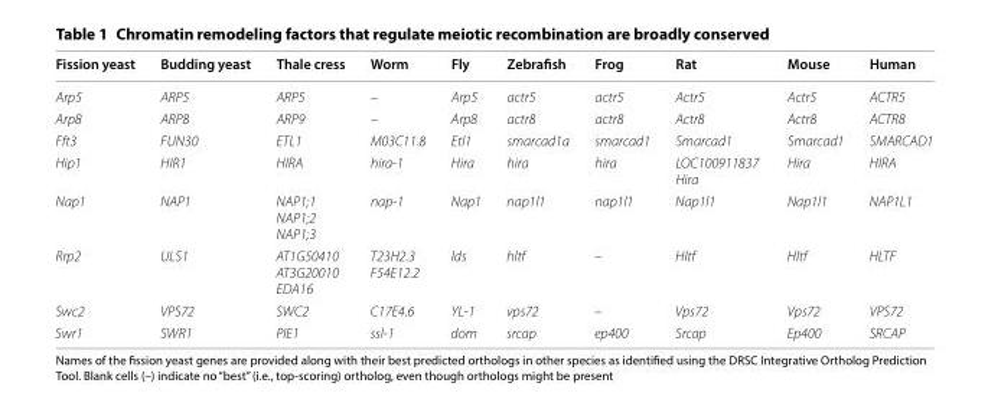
<table><thead><tr><td>Fission yeast</td><td>Budding yeast</td><td>Thale cress</td><td>Worm</td><td>Fly</td><td>Zebrafish</td><td>Frog</td><td>Rat</td><td>Mouse</td><td>Human</td></tr></thead><tbody><tr><td>Arp5</td><td>ARP5</td><td>ARP5</td><td>–</td><td>Arp5</td><td>actr5</td><td>actr5</td><td>Actr5</td><td>Actr5</td><td>ACTR5</td></tr><tr><td>Arp8</td><td>ARP8</td><td>ARP9</td><td>–</td><td>Arp8</td><td>actr8</td><td>actr8</td><td>Actr8</td><td>Actr8</td><td>ACTR8</td></tr><tr><td>Fft3</td><td>FUN30</td><td>ETL1</td><td>M03C11.8</td><td>Etl1</td><td>smarcad1a</td><td>smarcad1</td><td>Smarcad1</td><td>Smarcad1</td><td>SMARCAD1</td></tr><tr><td>Hip1</td><td>HIR1</td><td>HIRA</td><td>hira‑1</td><td>Hira</td><td>hira</td><td>hira</td><td>LOC100911837 Hira</td><td>Hira</td><td>HIRA</td></tr><tr><td>Nap1</td><td>NAP1</td><td>NAP1;1 NAP1;2 NAP1;3</td><td>nap‑1</td><td>Nap1</td><td>nap1l1</td><td>nap1l1</td><td>Nap1l1</td><td>Nap1l1</td><td>NAP1L1</td></tr><tr><td>Rrp2</td><td>ULS1</td><td>AT1G50410 AT3G20010 EDA16</td><td>T23H2.3 F54E12.2</td><td>lds</td><td>hltf</td><td>–</td><td>Hltf</td><td>Hltf</td><td>HLTF</td></tr><tr><td>Swc2</td><td>VPS72</td><td>SWC2</td><td>C17E4.6</td><td>YL‑1</td><td>vps72</td><td>–</td><td>Vps72</td><td>Vps72</td><td>VPS72</td></tr><tr><td>Swr1</td><td>SWR1</td><td>PIE1</td><td>ssl‑1</td><td>dom</td><td>srcap</td><td>ep400</td><td>Srcap</td><td>Ep400</td><td>SRCAP</td></tr></tbody></table>